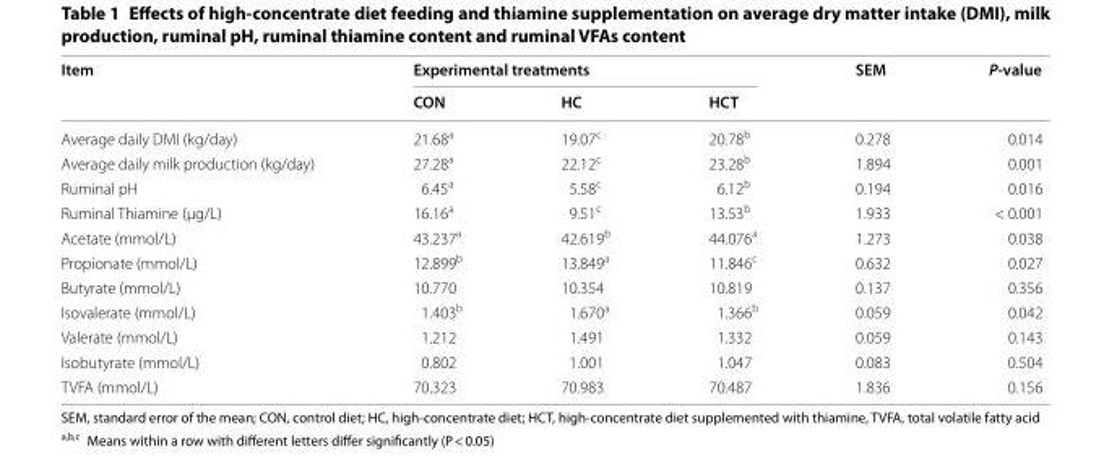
<table><thead><tr><td rowspan="2">Item</td><td colspan="3">Experimental treatments</td><td rowspan="2">SEM</td><td rowspan="2">P-value</td></tr><tr><td>CON</td><td>HC</td><td>HCT</td></tr></thead><tbody><tr><td>Average daily DMI (kg/day)</td><td>21.68<sup>a</sup></td><td>19.07<sup>c</sup></td><td>20.78<sup>b</sup></td><td>0.278</td><td>0.014</td></tr><tr><td>Average daily milk production (kg/day)</td><td>27.28<sup>a</sup></td><td>22.12<sup>c</sup></td><td>23.28<sup>b</sup></td><td>1.894</td><td>0.001</td></tr><tr><td>Ruminal pH</td><td>6.45<sup>a</sup></td><td>5.58<sup>c</sup></td><td>6.12<sup>b</sup></td><td>0.194</td><td>0.016</td></tr><tr><td>Ruminal Thiamine (µg/L)</td><td>16.16<sup>a</sup></td><td>9.51<sup>c</sup></td><td>13.53<sup>b</sup></td><td>1.933</td><td>&lt; 0.001</td></tr><tr><td>Acetate (mmol/L)</td><td>43.237<sup>a</sup></td><td>42.619<sup>b</sup></td><td>44.076<sup>a</sup></td><td>1.273</td><td>0.038</td></tr><tr><td>Propionate (mmol/L)</td><td>12.899<sup>b</sup></td><td>13.849<sup>a</sup></td><td>11.846<sup>c</sup></td><td>0.632</td><td>0.027</td></tr><tr><td>Butyrate (mmol/L)</td><td>10.770</td><td>10.354</td><td>10.819</td><td>0.137</td><td>0.356</td></tr><tr><td>Isovalerate (mmol/L)</td><td>1.403<sup>b</sup></td><td>1.670<sup>a</sup></td><td>1.366<sup>b</sup></td><td>0.059</td><td>0.042</td></tr><tr><td>Valerate (mmol/L)</td><td>1.212</td><td>1.491</td><td>1.332</td><td>0.059</td><td>0.143</td></tr><tr><td>Isobutyrate (mmol/L)</td><td>0.802</td><td>1.001</td><td>1.047</td><td>0.083</td><td>0.504</td></tr><tr><td>TVFA (mmol/L)</td><td>70.323</td><td>70.983</td><td>70.487</td><td>1.836</td><td>0.156</td></tr></tbody></table>